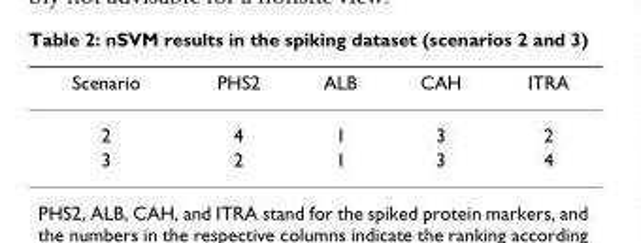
<table><thead><tr><td>Scenario</td><td>PHS2</td><td>ALB</td><td>CAH</td><td>ITRA</td></tr></thead><tbody><tr><td>2</td><td>4</td><td>1</td><td>3</td><td>2</td></tr><tr><td>3</td><td>2</td><td>1</td><td>3</td><td>4</td></tr></tbody></table>